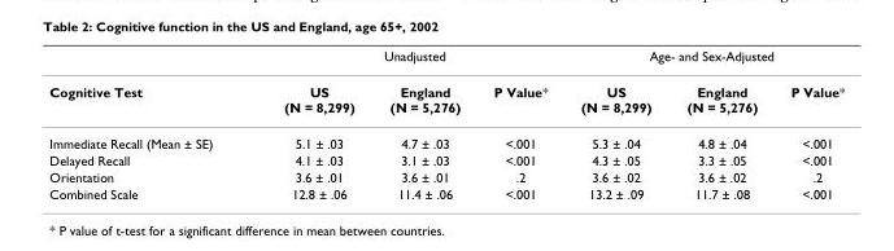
<table><thead><tr><td rowspan="2">Cognitive Test</td><td colspan="3">Unadjusted</td><td colspan="3">Age- and Sex-Adjusted</td></tr><tr><td>US (N = 8,299)</td><td>England (N = 5,276)</td><td>P Value*</td><td>US (N = 8,299)</td><td>England (N = 5,276)</td><td>P Value*</td></tr></thead><tbody><tr><td>Immediate Recall (Mean ± SE)</td><td>5.1 ± .03</td><td>4.7 ± .03</td><td>&lt;.001</td><td>5.3 ± .04</td><td>4.8 ± .04</td><td>&lt;.001</td></tr><tr><td>Delayed Recall</td><td>4.1 ± .03</td><td>3.1 ± .03</td><td>&lt;.001</td><td>4.3 ± .05</td><td>3.3 ± .05</td><td>&lt;.001</td></tr><tr><td>Orientation</td><td>3.6 ± .01</td><td>3.6 ± .01</td><td>.2</td><td>3.6 ± .02</td><td>3.6 ± .02</td><td>.2</td></tr><tr><td>Combined Scale</td><td>12.8 ± .06</td><td>11.4 ± .06</td><td>&lt;.001</td><td>13.2 ± .09</td><td>11.7 ± .08</td><td>&lt;.001</td></tr></tbody></table>